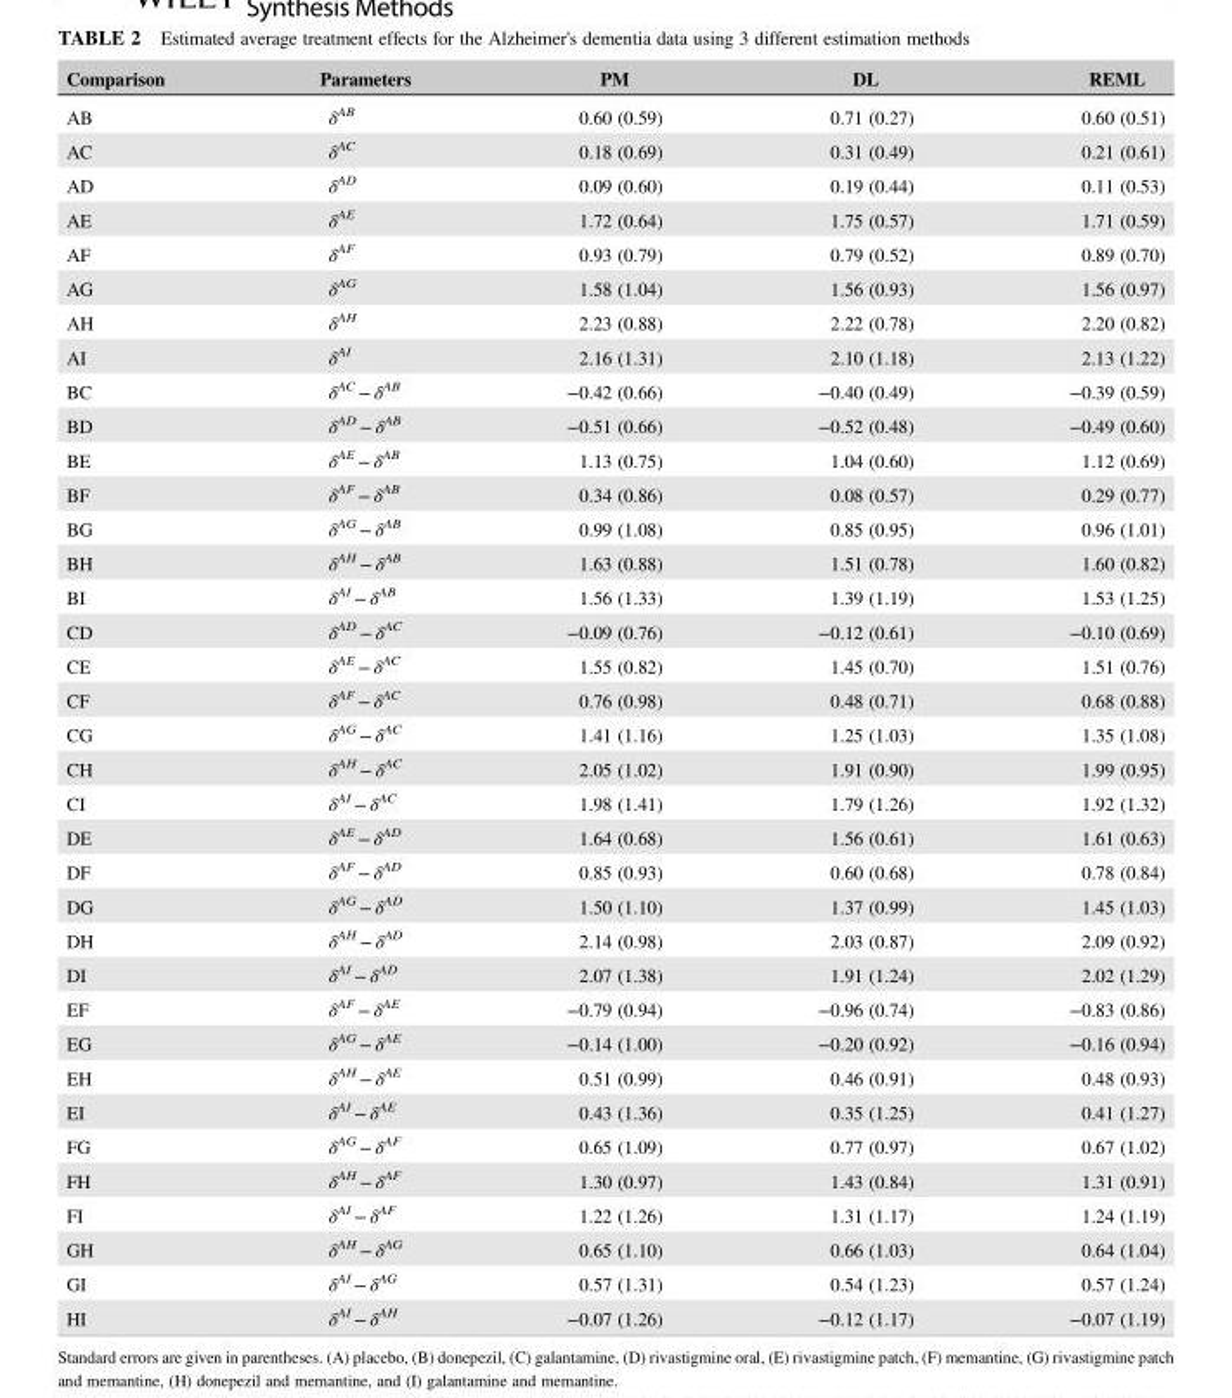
<table><thead><tr><td>Comparison</td><td>Parameters</td><td>PM</td><td>DL</td><td>REML</td></tr></thead><tbody><tr><td>AB</td><td>δ<sup>AB</sup></td><td>0.60 (0.59)</td><td>0.71 (0.27)</td><td>0.60 (0.51)</td></tr><tr><td>AC</td><td>δ<sup>AC</sup></td><td>0.18 (0.69)</td><td>0.31 (0.49)</td><td>0.21 (0.61)</td></tr><tr><td>AD</td><td>δ<sup>AD</sup></td><td>0.09 (0.60)</td><td>0.19 (0.44)</td><td>0.11 (0.53)</td></tr><tr><td>AE</td><td>δ<sup>AE</sup></td><td>1.72 (0.64)</td><td>1.75 (0.57)</td><td>1.71 (0.59)</td></tr><tr><td>AF</td><td>δ<sup>AF</sup></td><td>0.93 (0.79)</td><td>0.79 (0.52)</td><td>0.89 (0.70)</td></tr><tr><td>AG</td><td>δ<sup>AG</sup></td><td>1.58 (1.04)</td><td>1.56 (0.93)</td><td>1.56 (0.97)</td></tr><tr><td>AH</td><td>δ<sup>AH</sup></td><td>2.23 (0.88)</td><td>2.22 (0.78)</td><td>2.20 (0.82)</td></tr><tr><td>AI</td><td>δ<sup>AI</sup></td><td>2.16 (1.31)</td><td>2.10 (1.18)</td><td>2.13 (1.22)</td></tr><tr><td>BC</td><td>δ<sup>AC</sup> − δ<sup>AB</sup></td><td>−0.42 (0.66)</td><td>−0.40 (0.49)</td><td>−0.39 (0.59)</td></tr><tr><td>BD</td><td>δ<sup>AD</sup> − δ<sup>AB</sup></td><td>−0.51 (0.66)</td><td>−0.52 (0.48)</td><td>−0.49 (0.60)</td></tr><tr><td>BE</td><td>δ<sup>AE</sup> − δ<sup>AB</sup></td><td>1.13 (0.75)</td><td>1.04 (0.60)</td><td>1.12 (0.69)</td></tr><tr><td>BF</td><td>δ<sup>AF</sup> − δ<sup>AB</sup></td><td>0.34 (0.86)</td><td>0.08 (0.57)</td><td>0.29 (0.77)</td></tr><tr><td>BG</td><td>δ<sup>AG</sup> − δ<sup>AB</sup></td><td>0.99 (1.08)</td><td>0.85 (0.95)</td><td>0.96 (1.01)</td></tr><tr><td>BH</td><td>δ<sup>AH</sup> − δ<sup>AB</sup></td><td>1.63 (0.88)</td><td>1.51 (0.78)</td><td>1.60 (0.82)</td></tr><tr><td>BI</td><td>δ<sup>AI</sup> − δ<sup>AB</sup></td><td>1.56 (1.33)</td><td>1.39 (1.19)</td><td>1.53 (1.25)</td></tr><tr><td>CD</td><td>δ<sup>AD</sup> − δ<sup>AC</sup></td><td>−0.09 (0.76)</td><td>−0.12 (0.61)</td><td>−0.10 (0.69)</td></tr><tr><td>CE</td><td>δ<sup>AE</sup> − δ<sup>AC</sup></td><td>1.55 (0.82)</td><td>1.45 (0.70)</td><td>1.51 (0.76)</td></tr><tr><td>CF</td><td>δ<sup>AF</sup> − δ<sup>AC</sup></td><td>0.76 (0.98)</td><td>0.48 (0.71)</td><td>0.68 (0.88)</td></tr><tr><td>CG</td><td>δ<sup>AG</sup> − δ<sup>AC</sup></td><td>1.41 (1.16)</td><td>1.25 (1.03)</td><td>1.35 (1.08)</td></tr><tr><td>CH</td><td>δ<sup>AH</sup> − δ<sup>AC</sup></td><td>2.05 (1.02)</td><td>1.91 (0.90)</td><td>1.99 (0.95)</td></tr><tr><td>CI</td><td>δ<sup>AI</sup> − δ<sup>AC</sup></td><td>1.98 (1.41)</td><td>1.79 (1.26)</td><td>1.92 (1.32)</td></tr><tr><td>DE</td><td>δ<sup>AE</sup> − δ<sup>AD</sup></td><td>1.64 (0.68)</td><td>1.56 (0.61)</td><td>1.61 (0.63)</td></tr><tr><td>DF</td><td>δ<sup>AF</sup> − δ<sup>AD</sup></td><td>0.85 (0.93)</td><td>0.60 (0.68)</td><td>0.78 (0.84)</td></tr><tr><td>DG</td><td>δ<sup>AG</sup> − δ<sup>AD</sup></td><td>1.50 (1.10)</td><td>1.37 (0.99)</td><td>1.45 (1.03)</td></tr><tr><td>DH</td><td>δ<sup>AH</sup> − δ<sup>AD</sup></td><td>2.14 (0.98)</td><td>2.03 (0.87)</td><td>2.09 (0.92)</td></tr><tr><td>DI</td><td>δ<sup>AI</sup> − δ<sup>AD</sup></td><td>2.07 (1.38)</td><td>1.91 (1.24)</td><td>2.02 (1.29)</td></tr><tr><td>EF</td><td>δ<sup>AF</sup> − δ<sup>AE</sup></td><td>−0.79 (0.94)</td><td>−0.96 (0.74)</td><td>−0.83 (0.86)</td></tr><tr><td>EG</td><td>δ<sup>AG</sup> − δ<sup>AE</sup></td><td>−0.14 (1.00)</td><td>−0.20 (0.92)</td><td>−0.16 (0.94)</td></tr><tr><td>EH</td><td>δ<sup>AH</sup> − δ<sup>AE</sup></td><td>0.51 (0.99)</td><td>0.46 (0.91)</td><td>0.48 (0.93)</td></tr><tr><td>EI</td><td>δ<sup>AI</sup> − δ<sup>AE</sup></td><td>0.43 (1.36)</td><td>0.35 (1.25)</td><td>0.41 (1.27)</td></tr><tr><td>FG</td><td>δ<sup>AG</sup> − δ<sup>AF</sup></td><td>0.65 (1.09)</td><td>0.77 (0.97)</td><td>0.67 (1.02)</td></tr><tr><td>FH</td><td>δ<sup>AH</sup> − δ<sup>AF</sup></td><td>1.30 (0.97)</td><td>1.43 (0.84)</td><td>1.31 (0.91)</td></tr><tr><td>FI</td><td>δ<sup>AI</sup> − δ<sup>AF</sup></td><td>1.22 (1.26)</td><td>1.31 (1.17)</td><td>1.24 (1.19)</td></tr><tr><td>GH</td><td>δ<sup>AH</sup> − δ<sup>AG</sup></td><td>0.65 (1.10)</td><td>0.66 (1.03)</td><td>0.64 (1.04)</td></tr><tr><td>GI</td><td>δ<sup>AI</sup> − δ<sup>AG</sup></td><td>0.57 (1.31)</td><td>0.54 (1.23)</td><td>0.57 (1.24)</td></tr><tr><td>HI</td><td>δ<sup>AI</sup> − δ<sup>AH</sup></td><td>−0.07 (1.26)</td><td>−0.12 (1.17)</td><td>−0.07 (1.19)</td></tr></tbody></table>